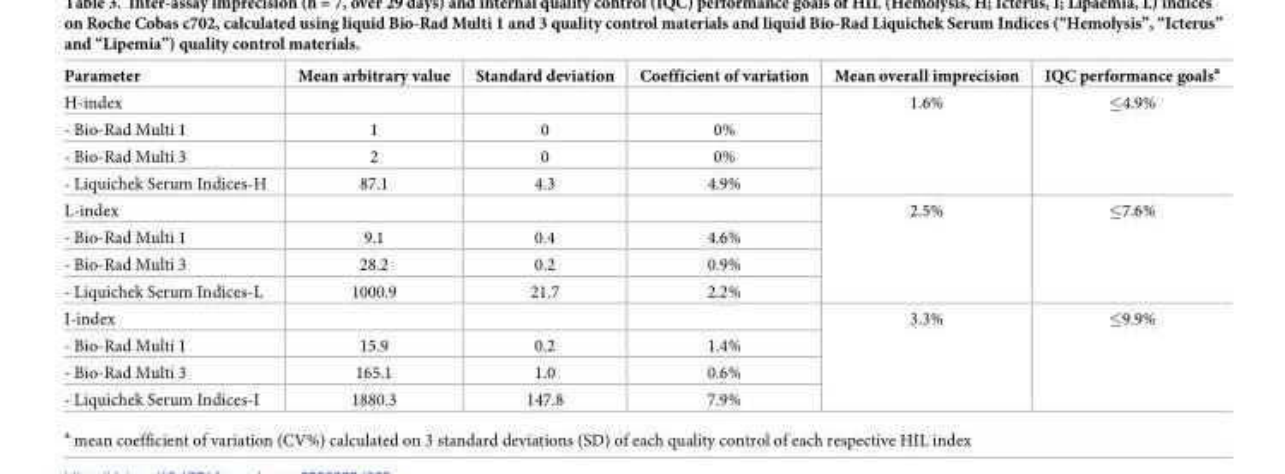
<table><thead><tr><td>Parameter</td><td>Mean arbitrary value</td><td>Standard deviation</td><td>Coefficient of variation</td><td>Mean overall imprecision</td><td>IQC performance goals<sup>a</sup></td></tr></thead><tbody><tr><td colspan="4">H-index</td><td rowspan="4">1.6%</td><td rowspan="4">≤4.9%</td></tr><tr><td>- Bio-Rad Multi 1</td><td>1</td><td>0</td><td>0%</td></tr><tr><td>- Bio-Rad Multi 3</td><td>2</td><td>0</td><td>0%</td></tr><tr><td>- Liquichek Serum Indices-H</td><td>87.1</td><td>4.3</td><td>4.9%</td></tr><tr><td colspan="4">L-index</td><td rowspan="4">2.5%</td><td rowspan="4">≤7.6%</td></tr><tr><td>- Bio-Rad Multi 1</td><td>9.1</td><td>0.4</td><td>4.6%</td></tr><tr><td>- Bio-Rad Multi 3</td><td>28.2</td><td>0.2</td><td>0.9%</td></tr><tr><td>- Liquichek Serum Indices-L</td><td>1000.9</td><td>21.7</td><td>2.2%</td></tr><tr><td colspan="4">I-index</td><td rowspan="4">3.3%</td><td rowspan="4">≤9.9%</td></tr><tr><td>- Bio-Rad Multi 1</td><td>15.9</td><td>0.2</td><td>1.4%</td></tr><tr><td>- Bio-Rad Multi 3</td><td>165.1</td><td>1.0</td><td>0.6%</td></tr><tr><td>- Liquichek Serum Indices-I</td><td>1880.3</td><td>147.8</td><td>7.9%</td></tr></tbody></table>